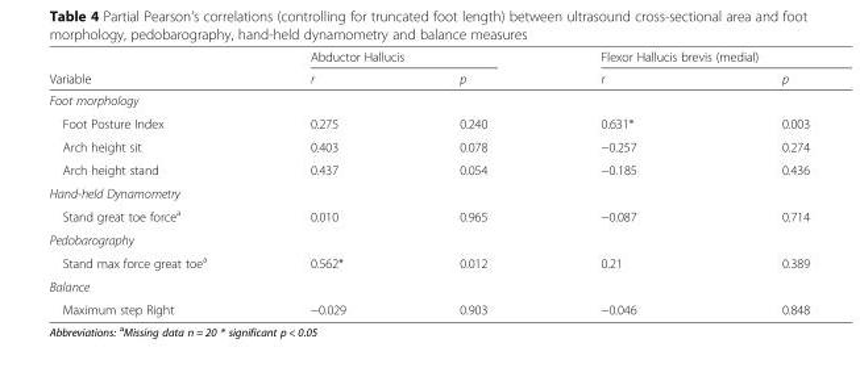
<table><thead><tr><td rowspan="2">Variable</td><td colspan="2">Abductor Hallucis</td><td colspan="2">Flexor Hallucis brevis (medial)</td></tr><tr><td>r</td><td>p</td><td>r</td><td>p</td></tr></thead><tbody><tr><td colspan="5">Foot morphology</td></tr><tr><td>Foot Posture Index</td><td>0.275</td><td>0.240</td><td>0.631*</td><td>0.003</td></tr><tr><td>Arch height sit</td><td>0.403</td><td>0.078</td><td>−0.257</td><td>0.274</td></tr><tr><td>Arch height stand</td><td>0.437</td><td>0.054</td><td>−0.185</td><td>0.436</td></tr><tr><td colspan="5">Hand-held Dynamometry</td></tr><tr><td>Stand great toe force<sup>a</sup></td><td>0.010</td><td>0.965</td><td>−0.087</td><td>0.714</td></tr><tr><td colspan="5">Pedobarography</td></tr><tr><td>Stand max force great toe<sup>a</sup></td><td>0.562*</td><td>0.012</td><td>0.21</td><td>0.389</td></tr><tr><td colspan="5">Balance</td></tr><tr><td>Maximum step Right</td><td>−0.029</td><td>0.903</td><td>−0.046</td><td>0.848</td></tr></tbody></table>